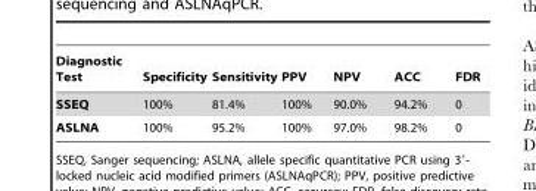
<table><thead><tr><td>Diagnostic Test</td><td>Specificity</td><td>Sensitivity</td><td>PPV</td><td>NPV</td><td>ACC</td><td>FDR</td></tr></thead><tbody><tr><td>SSEQ</td><td>100%</td><td>81.4%</td><td>100%</td><td>90.0%</td><td>94.2%</td><td>0</td></tr><tr><td>ASLNA</td><td>100%</td><td>95.2%</td><td>100%</td><td>97.0%</td><td>98.2%</td><td>0</td></tr></tbody></table>